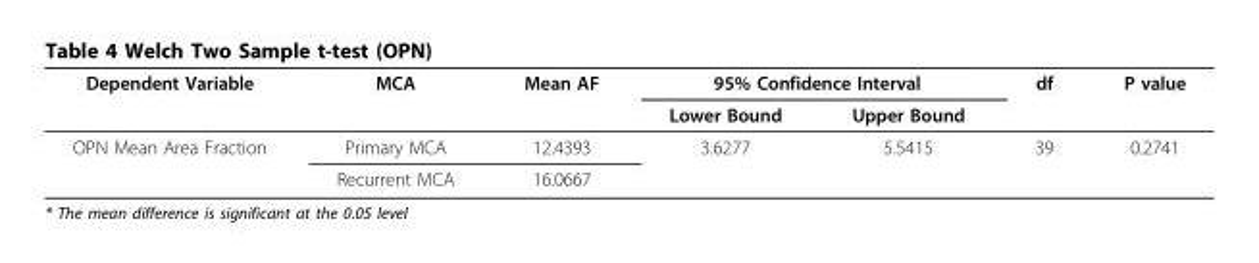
<table><thead><tr><td rowspan="2">Dependent Variable</td><td rowspan="2">MCA</td><td rowspan="2">Mean AF</td><td colspan="2">95% Confidence Interval</td><td rowspan="2">df</td><td rowspan="2">P value</td></tr><tr><td>Lower Bound</td><td>Upper Bound</td></tr></thead><tbody><tr><td rowspan="2">OPN Mean Area Fraction</td><td>Primary MCA</td><td>12.4393</td><td>3.6277</td><td>5.5415</td><td>39</td><td>0.2741</td></tr><tr><td>Recurrent MCA</td><td>16.0667</td><td></td><td></td><td></td><td></td></tr></tbody></table>